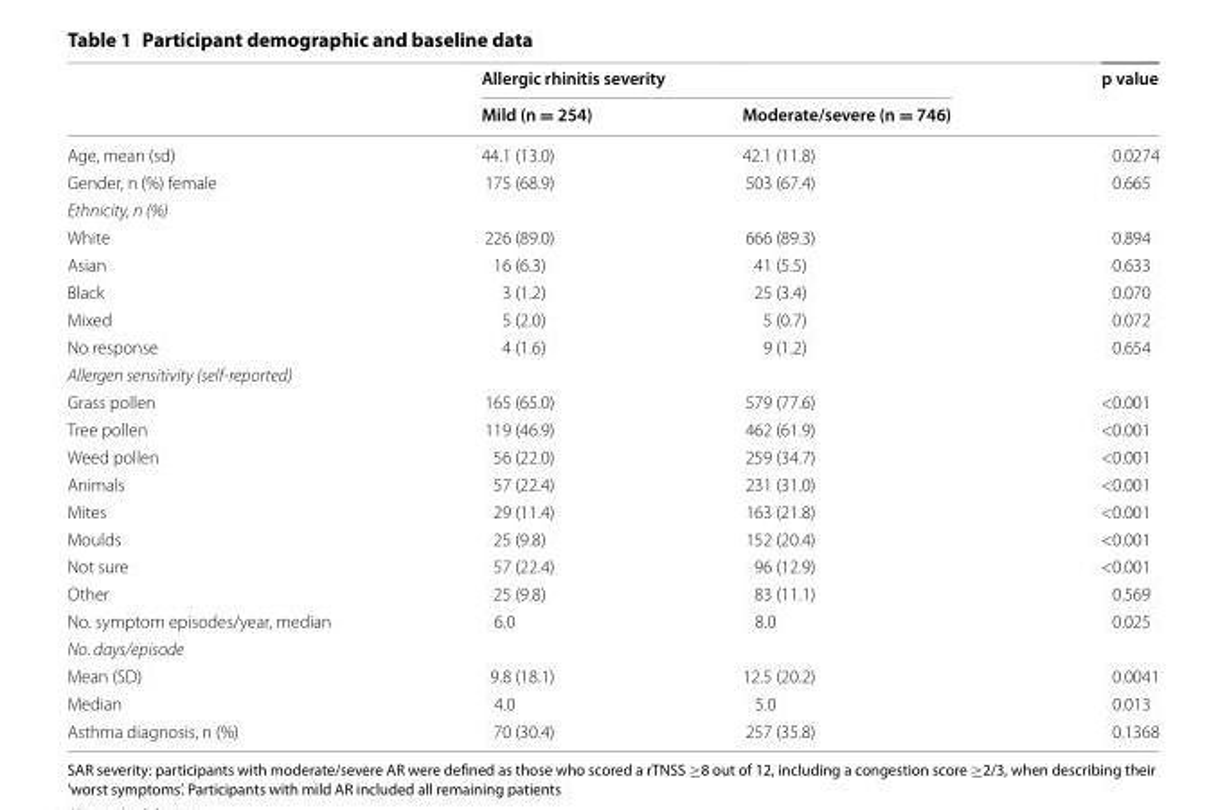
<table><thead><tr><td rowspan="2"></td><td colspan="2">Allergic rhinitis severity</td><td rowspan="2">p value</td></tr><tr><td>Mild (n = 254)</td><td>Moderate/severe (n = 746)</td></tr></thead><tbody><tr><td>Age, mean (sd)</td><td>44.1 (13.0)</td><td>42.1 (11.8)</td><td>0.0274</td></tr><tr><td>Gender, n (%) female</td><td>175 (68.9)</td><td>503 (67.4)</td><td>0.665</td></tr><tr><td colspan="4">Ethnicity, n (%)</td></tr><tr><td>White</td><td>226 (89.0)</td><td>666 (89.3)</td><td>0.894</td></tr><tr><td>Asian</td><td>16 (6.3)</td><td>41 (5.5)</td><td>0.633</td></tr><tr><td>Black</td><td>3 (1.2)</td><td>25 (3.4)</td><td>0.070</td></tr><tr><td>Mixed</td><td>5 (2.0)</td><td>5 (0.7)</td><td>0.072</td></tr><tr><td>No response</td><td>4 (1.6)</td><td>9 (1.2)</td><td>0.654</td></tr><tr><td colspan="4">Allergen sensitivity (self-reported)</td></tr><tr><td>Grass pollen</td><td>165 (65.0)</td><td>579 (77.6)</td><td>&lt;0.001</td></tr><tr><td>Tree pollen</td><td>119 (46.9)</td><td>462 (61.9)</td><td>&lt;0.001</td></tr><tr><td>Weed pollen</td><td>56 (22.0)</td><td>259 (34.7)</td><td>&lt;0.001</td></tr><tr><td>Animals</td><td>57 (22.4)</td><td>231 (31.0)</td><td>&lt;0.001</td></tr><tr><td>Mites</td><td>29 (11.4)</td><td>163 (21.8)</td><td>&lt;0.001</td></tr><tr><td>Moulds</td><td>25 (9.8)</td><td>152 (20.4)</td><td>&lt;0.001</td></tr><tr><td>Not sure</td><td>57 (22.4)</td><td>96 (12.9)</td><td>&lt;0.001</td></tr><tr><td>Other</td><td>25 (9.8)</td><td>83 (11.1)</td><td>0.569</td></tr><tr><td>No. symptom episodes/year, median</td><td>6.0</td><td>8.0</td><td>0.025</td></tr><tr><td colspan="4">No. days/episode</td></tr><tr><td>Mean (SD)</td><td>9.8 (18.1)</td><td>12.5 (20.2)</td><td>0.0041</td></tr><tr><td>Median</td><td>4.0</td><td>5.0</td><td>0.013</td></tr><tr><td>Asthma diagnosis, n (%)</td><td>70 (30.4)</td><td>257 (35.8)</td><td>0.1368</td></tr></tbody></table>